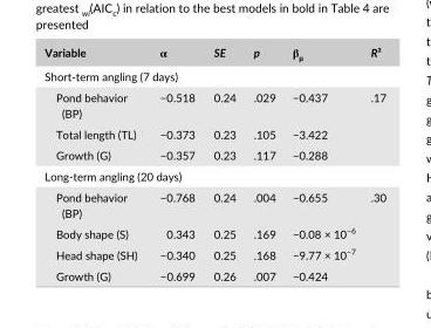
<table><thead><tr><td>Variable</td><td>α</td><td>SE</td><td>p</td><td>β<sub>μ</sub></td><td>R²</td></tr></thead><tbody><tr><td colspan="6">Short- term angling (7 days)</td></tr><tr><td>Pond behavior (BP)</td><td>−0.518</td><td>0.24</td><td>.029</td><td>−0.437</td><td rowspan="3">.17</td></tr><tr><td>Total length (TL)</td><td>−0.373</td><td>0.23</td><td>.105</td><td>−3.422</td></tr><tr><td>Growth (G)</td><td>−0.357</td><td>0.23</td><td>.117</td><td>−0.288</td></tr><tr><td colspan="6">Long- term angling (20 days)</td></tr><tr><td>Pond behavior (BP)</td><td>−0.768</td><td>0.24</td><td>.004</td><td>−0.655</td><td rowspan="4">.30</td></tr><tr><td>Body shape (S)</td><td>0.343</td><td>0.25</td><td>.169</td><td>−0.08 × 10<sup>−6</sup></td></tr><tr><td>Head shape (SH)</td><td>−0.340</td><td>0.25</td><td>.168</td><td>−9.77 × 10<sup>−7</sup></td></tr><tr><td>Growth (G)</td><td>−0.699</td><td>0.26</td><td>.007</td><td>−0.424</td></tr></tbody></table>